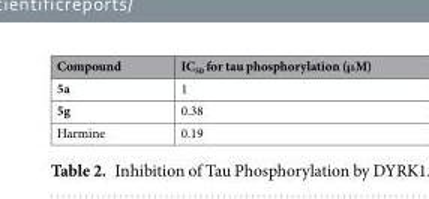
<table><thead><tr><td>Compound</td><td>IC<sub>50</sub> for tau phosphorylation (μM)</td></tr></thead><tbody><tr><td>5a</td><td>1</td></tr><tr><td>5g</td><td>0.38</td></tr><tr><td>Harmine</td><td>0.19</td></tr></tbody></table>